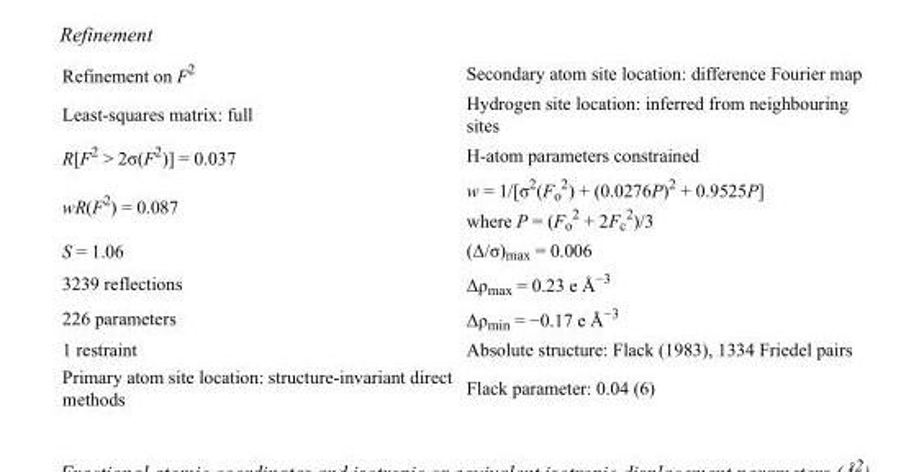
<table><tbody><tr><td>Refinement on F<sup>2</sup></td><td>Secondary atom site location: difference Fourier map</td></tr><tr><td>Least-squares matrix: full</td><td>Hydrogen site location: inferred from neighbouring sites</td></tr><tr><td>R[F<sup>2</sup> &gt; 2σ(F<sup>2</sup>)] = 0.037</td><td>H-atom parameters constrained</td></tr><tr><td>wR(F<sup>2</sup>) = 0.087</td><td>w = 1/[σ<sup>2</sup>(F<sub>o</sub> <sup>2</sup>) + (0.0276P)<sup>2</sup> + 0.9525P] where P = (F<sub>o</sub> <sup>2</sup> + 2F<sub>c</sub> <sup>2</sup>)/3</td></tr><tr><td>S = 1.06</td><td>(Δ/σ)<sub>max</sub> = 0.006</td></tr><tr><td>3239 reflections</td><td>Δρ<sub>max</sub> = 0.23 e Å<sup>−3</sup></td></tr><tr><td>226 parameters</td><td>Δρ<sub>min</sub> = −0.17 e Å<sup>−3</sup></td></tr><tr><td>1 restraint</td><td>Absolute structure: Flack (1983), 1334 Friedel pairs</td></tr><tr><td>Primary atom site location: structure-invariant direct methods</td><td>Flack parameter: 0.04 (6)</td></tr></tbody></table>